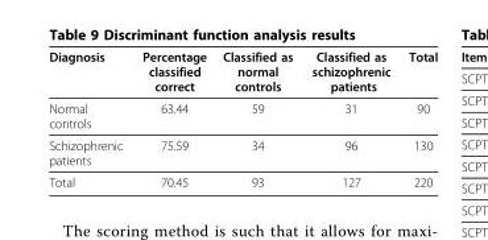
<table><thead><tr><td>Diagnosis</td><td>Percentage classified correct</td><td>Classified as normal controls</td><td>Classified as schizophrenic patients</td><td>Total</td></tr></thead><tbody><tr><td>Normal controls</td><td>63.44</td><td>59</td><td>31</td><td>90</td></tr><tr><td>Schizophrenic patients</td><td>75.59</td><td>34</td><td>96</td><td>130</td></tr><tr><td>Total</td><td>70.45</td><td>93</td><td>127</td><td>220</td></tr></tbody></table>